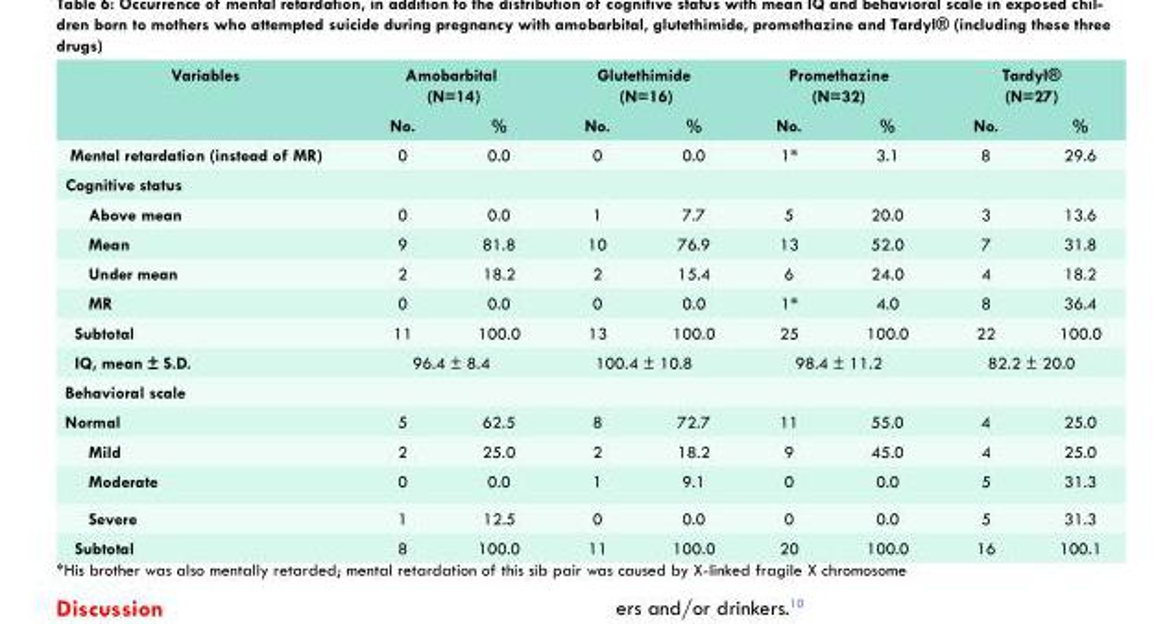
<table><thead><tr><td rowspan="2">Variables</td><td colspan="2">Amobarbital (N=14)</td><td colspan="2">Glutethimide (N=16)</td><td colspan="2">Promethazine (N=32)</td><td colspan="2">Tardyl® (N=27)</td></tr><tr><td>No.</td><td>%</td><td>No.</td><td>%</td><td>No.</td><td>%</td><td>No.</td><td>%</td></tr></thead><tbody><tr><td>Mental retardation (instead of MR)</td><td>0</td><td>0.0</td><td>0</td><td>0.0</td><td>1*</td><td>3.1</td><td>8</td><td>29.6</td></tr><tr><td colspan="9">Cognitive status</td></tr><tr><td>Above mean</td><td>0</td><td>0.0</td><td>1</td><td>7.7</td><td>5</td><td>20.0</td><td>3</td><td>13.6</td></tr><tr><td>Mean</td><td>9</td><td>81.8</td><td>10</td><td>76.9</td><td>13</td><td>52.0</td><td>7</td><td>31.8</td></tr><tr><td>Under mean</td><td>2</td><td>18.2</td><td>2</td><td>15.4</td><td>6</td><td>24.0</td><td>4</td><td>18.2</td></tr><tr><td>MR</td><td>0</td><td>0.0</td><td>0</td><td>0.0</td><td>1*</td><td>4.0</td><td>8</td><td>36.4</td></tr><tr><td>Subtotal</td><td>11</td><td>100.0</td><td>13</td><td>100.0</td><td>25</td><td>100.0</td><td>22</td><td>100.0</td></tr><tr><td>IQ, mean ± S.D.</td><td colspan="2">96.4 ± 8.4</td><td colspan="2">100.4 ± 10.8</td><td colspan="2">98.4 ± 11.2</td><td colspan="2">82.2 ± 20.0</td></tr><tr><td colspan="9">Behavioral scale</td></tr><tr><td>Normal</td><td>5</td><td>62.5</td><td>8</td><td>72.7</td><td>11</td><td>55.0</td><td>4</td><td>25.0</td></tr><tr><td>Mild</td><td>2</td><td>25.0</td><td>2</td><td>18.2</td><td>9</td><td>45.0</td><td>4</td><td>25.0</td></tr><tr><td>Moderate</td><td>0</td><td>0.0</td><td>1</td><td>9.1</td><td>0</td><td>0.0</td><td>5</td><td>31.3</td></tr><tr><td>Severe</td><td>1</td><td>12.5</td><td>0</td><td>0.0</td><td>0</td><td>0.0</td><td>5</td><td>31.3</td></tr><tr><td>Subtotal</td><td>8</td><td>100.0</td><td>11</td><td>100.0</td><td>20</td><td>100.0</td><td>16</td><td>100.1</td></tr></tbody></table>